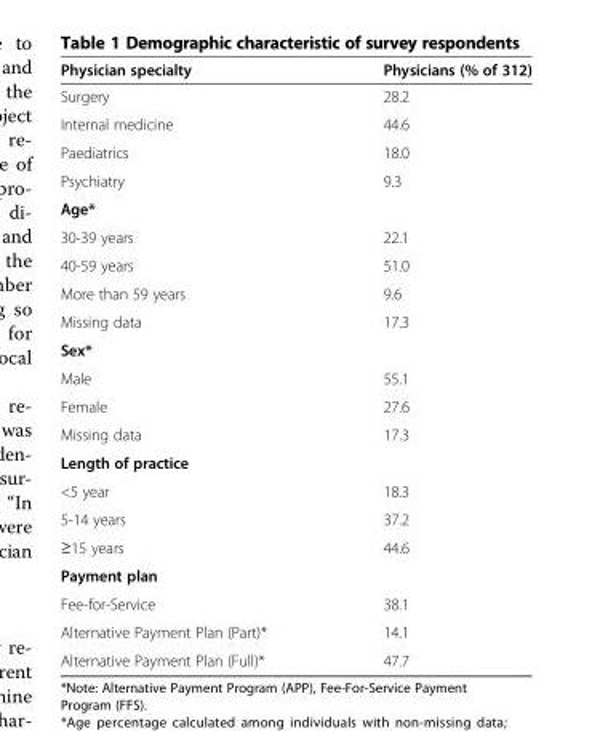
<table><thead><tr><td>Physician specialty</td><td>Physicians (% of 312)</td></tr></thead><tbody><tr><td>Surgery</td><td>28.2</td></tr><tr><td>Internal medicine</td><td>44.6</td></tr><tr><td>Paediatrics</td><td>18.0</td></tr><tr><td>Psychiatry</td><td>9.3</td></tr><tr><td colspan="2">Age*</td></tr><tr><td>30-39 years</td><td>22.1</td></tr><tr><td>40-59 years</td><td>51.0</td></tr><tr><td>More than 59 years</td><td>9.6</td></tr><tr><td>Missing data</td><td>17.3</td></tr><tr><td colspan="2">Sex*</td></tr><tr><td>Male</td><td>55.1</td></tr><tr><td>Female</td><td>27.6</td></tr><tr><td>Missing data</td><td>17.3</td></tr><tr><td colspan="2">Length of practice</td></tr><tr><td>&lt;5 year</td><td>18.3</td></tr><tr><td>5-14 years</td><td>37.2</td></tr><tr><td>≥15 years</td><td>44.6</td></tr><tr><td colspan="2">Payment plan</td></tr><tr><td>Fee-for-Service</td><td>38.1</td></tr><tr><td>Alternative Payment Plan (Part)*</td><td>14.1</td></tr><tr><td>Alternative Payment Plan (Full)*</td><td>47.7</td></tr></tbody></table>